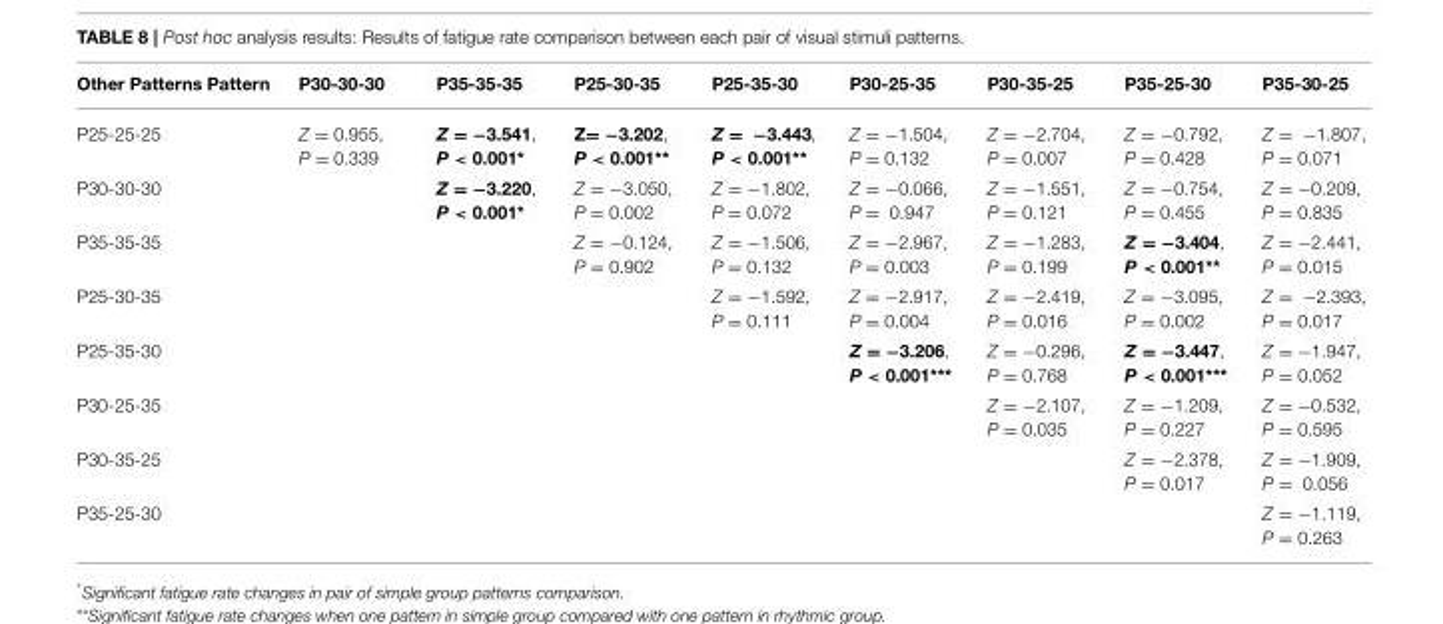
<table><thead><tr><td>Other Patterns Pattern</td><td>P30-30-30</td><td>P35-35-35</td><td>P25-30-35</td><td>P25-35-30</td><td>P30-25-35</td><td>P30-35-25</td><td>P35-25-30</td><td>P35-30-25</td></tr></thead><tbody><tr><td>P25-25-25</td><td>Z = 0.955, P = 0.339</td><td>Z = −3.541, P &lt; 0.001*</td><td>Z= −3.202, P &lt; 0.001**</td><td>Z = −3.443, P &lt; 0.001**</td><td>Z = −1.504, P = 0.132</td><td>Z = −2.704, P = 0.007</td><td>Z = −0.792, P = 0.428</td><td>Z = −1.807, P = 0.071</td></tr><tr><td>P30-30-30</td><td></td><td>Z = −3.220, P &lt; 0.001*</td><td>Z = −3.050, P = 0.002</td><td>Z = −1.802, P = 0.072</td><td>Z = −0.066, P = 0.947</td><td>Z = −1.551, P = 0.121</td><td>Z = −0.754, P = 0.455</td><td>Z = −0.209, P = 0.835</td></tr><tr><td>P35-35-35</td><td></td><td></td><td>Z = −0.124, P = 0.902</td><td>Z = −1.506, P = 0.132</td><td>Z = −2.967, P = 0.003</td><td>Z = −1.283, P = 0.199</td><td>Z = −3.404, P &lt; 0.001**</td><td>Z = −2.441, P = 0.015</td></tr><tr><td>P25-30-35</td><td></td><td></td><td></td><td>Z = −1.592, P = 0.111</td><td>Z = −2.917, P = 0.004</td><td>Z = −2.419, P = 0.016</td><td>Z = −3.095, P = 0.002</td><td>Z = −2.393, P = 0.017</td></tr><tr><td>P25-35-30</td><td></td><td></td><td></td><td></td><td>Z = −3.206, P &lt; 0.001***</td><td>Z = −0.296, P = 0.768</td><td>Z = −3.447, P &lt; 0.001***</td><td>Z = −1.947, P = 0.052</td></tr><tr><td>P30-25-35</td><td></td><td></td><td></td><td></td><td></td><td>Z = −2.107, P = 0.035</td><td>Z = −1.209, P = 0.227</td><td>Z = −0.532, P = 0.595</td></tr><tr><td>P30-35-25</td><td></td><td></td><td></td><td></td><td></td><td></td><td>Z = −2.378, P = 0.017</td><td>Z = −1.909, P = 0.056</td></tr><tr><td>P35-25-30</td><td></td><td></td><td></td><td></td><td></td><td></td><td></td><td>Z = −1.119, P = 0.263</td></tr></tbody></table>